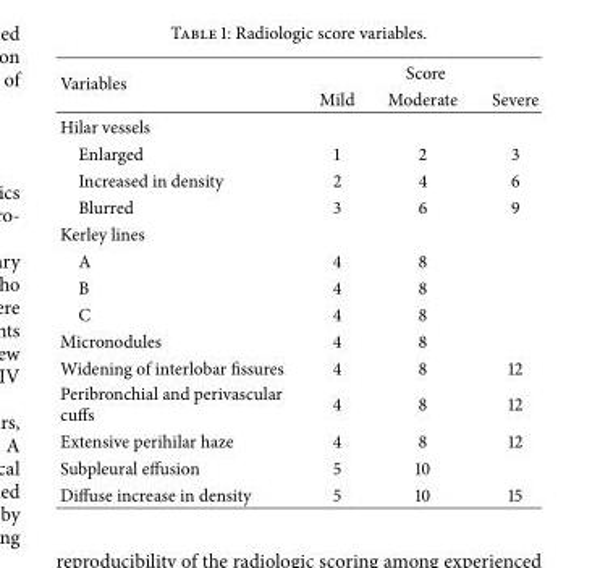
<table><thead><tr><td rowspan="2">Variables</td><td colspan="3">Score</td></tr><tr><td>Mild</td><td>Moderate</td><td>Severe</td></tr></thead><tbody><tr><td colspan="4">Hilar vessels</td></tr><tr><td>Enlarged</td><td>1</td><td>2</td><td>3</td></tr><tr><td>Increased in density</td><td>2</td><td>4</td><td>6</td></tr><tr><td>Blurred</td><td>3</td><td>6</td><td>9</td></tr><tr><td colspan="4">Kerley lines</td></tr><tr><td>A</td><td>4</td><td>8</td><td></td></tr><tr><td>B</td><td>4</td><td>8</td><td></td></tr><tr><td>C</td><td>4</td><td>8</td><td></td></tr><tr><td>Micronodules</td><td>4</td><td>8</td><td></td></tr><tr><td>Widening of interlobar fissures</td><td>4</td><td>8</td><td>12</td></tr><tr><td>Peribronchial and perivascular cuffs</td><td>4</td><td>8</td><td>12</td></tr><tr><td>Extensive perihilar haze</td><td>4</td><td>8</td><td>12</td></tr><tr><td>Subpleural effusion</td><td>5</td><td>10</td><td></td></tr><tr><td>Diffuse increase in density</td><td>5</td><td>10</td><td>15</td></tr></tbody></table>